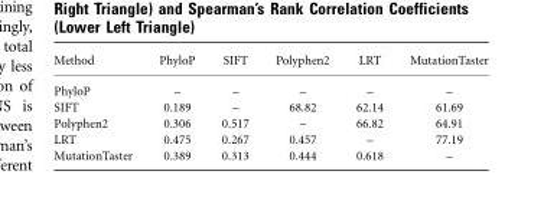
<table><thead><tr><td>Method</td><td>PhyloP</td><td>SIFT</td><td>Polyphen2</td><td>LRT</td><td>MutationTaster</td></tr></thead><tbody><tr><td>PhyloP</td><td>–</td><td>–</td><td>–</td><td>–</td><td>–</td></tr><tr><td>SIFT</td><td>0.189</td><td>–</td><td>68.82</td><td>62.14</td><td>61.69</td></tr><tr><td>Polyphen2</td><td>0.306</td><td>0.517</td><td>–</td><td>66.82</td><td>64.91</td></tr><tr><td>LRT</td><td>0.475</td><td>0.267</td><td>0.457</td><td>–</td><td>77.19</td></tr><tr><td>MutationTaster</td><td>0.389</td><td>0.313</td><td>0.444</td><td>0.618</td><td>–</td></tr></tbody></table>